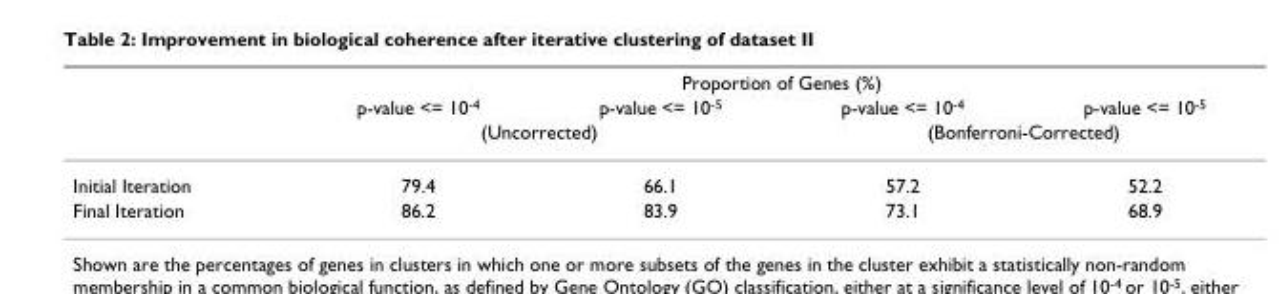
<table><thead><tr><td rowspan="3"></td><td colspan="4">Proportion of Genes (%)</td></tr><tr><td>p-value &lt;= 10<sup>-4</sup></td><td>p-value &lt;= 10<sup>-5</sup></td><td>p-value &lt;= 10<sup>-4</sup></td><td>p-value &lt;= 10<sup>-5</sup></td></tr><tr><td colspan="2">(Uncorrected)</td><td colspan="2">(Bonferroni-Corrected)</td></tr></thead><tbody><tr><td>Initial Iteration</td><td>79.4</td><td>66.1</td><td>57.2</td><td>52.2</td></tr><tr><td>Final Iteration</td><td>86.2</td><td>83.9</td><td>73.1</td><td>68.9</td></tr></tbody></table>